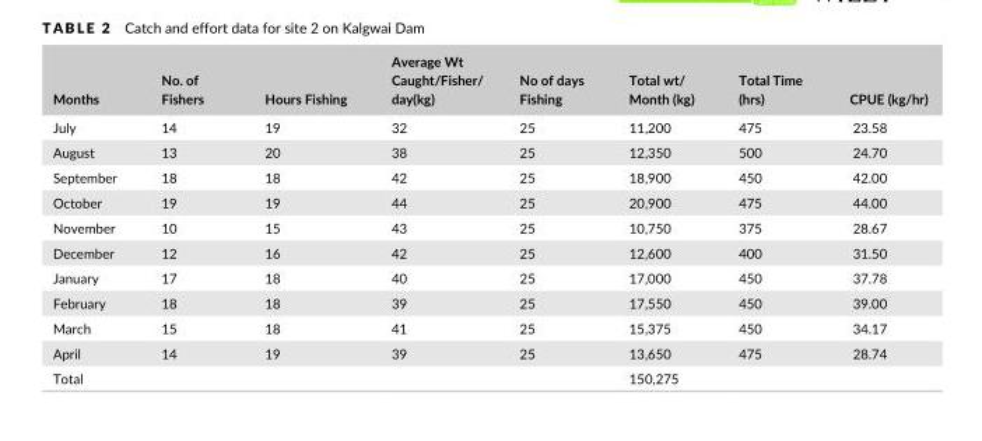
<table><thead><tr><td>Months</td><td>No. of Fishers</td><td>Hours Fishing</td><td>Average Wt Caught/Fisher/ day(kg)</td><td>No of days Fishing</td><td>Total wt/ Month (kg)</td><td>Total Time (hrs)</td><td>CPUE (kg/hr)</td></tr></thead><tbody><tr><td>July</td><td>14</td><td>19</td><td>32</td><td>25</td><td>11,200</td><td>475</td><td>23.58</td></tr><tr><td>August</td><td>13</td><td>20</td><td>38</td><td>25</td><td>12,350</td><td>500</td><td>24.70</td></tr><tr><td>September</td><td>18</td><td>18</td><td>42</td><td>25</td><td>18,900</td><td>450</td><td>42.00</td></tr><tr><td>October</td><td>19</td><td>19</td><td>44</td><td>25</td><td>20,900</td><td>475</td><td>44.00</td></tr><tr><td>November</td><td>10</td><td>15</td><td>43</td><td>25</td><td>10,750</td><td>375</td><td>28.67</td></tr><tr><td>December</td><td>12</td><td>16</td><td>42</td><td>25</td><td>12,600</td><td>400</td><td>31.50</td></tr><tr><td>January</td><td>17</td><td>18</td><td>40</td><td>25</td><td>17,000</td><td>450</td><td>37.78</td></tr><tr><td>February</td><td>18</td><td>18</td><td>39</td><td>25</td><td>17,550</td><td>450</td><td>39.00</td></tr><tr><td>March</td><td>15</td><td>18</td><td>41</td><td>25</td><td>15,375</td><td>450</td><td>34.17</td></tr><tr><td>April</td><td>14</td><td>19</td><td>39</td><td>25</td><td>13,650</td><td>475</td><td>28.74</td></tr><tr><td>Total</td><td></td><td></td><td></td><td></td><td>150,275</td><td></td><td></td></tr></tbody></table>